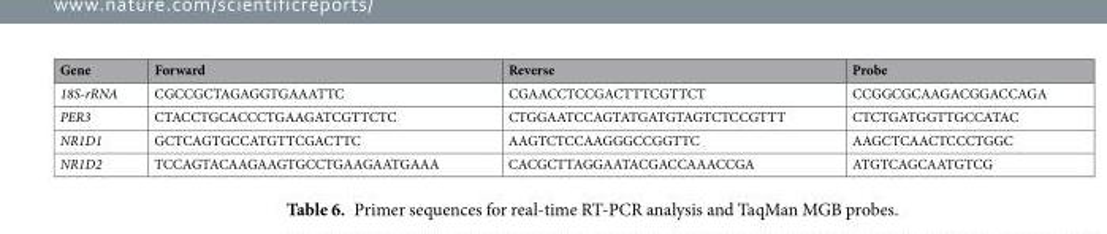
<table><thead><tr><td>Gene</td><td>Forward</td><td>Reverse</td><td>Probe</td></tr></thead><tbody><tr><td>18S-rRNA</td><td>CGCCGCTAGAGGTGAAATTC</td><td>CGAACCTCCGACTTTCGTTCT</td><td>CCGGCGCAAGACGGACCAGA</td></tr><tr><td>PER3</td><td>CTACCTGCACCCTGAAGATCGTTCTC</td><td>CTGGAATCCAGTATGATGTAGTCTCCGTTT</td><td>CTCTGATGGTTGCCATAC</td></tr><tr><td>NR1D1</td><td>GCTCAGTGCCATGTTCGACTTC</td><td>AAGTCTCCAAGGGCCGGTTC</td><td>AAGCTCAACTCCCTGGC</td></tr><tr><td>NR1D2</td><td>TCCAGTACAAGAAGTGCCTGAAGAATGAAA</td><td>CACGCTTAGGAATACGACCAAACCGA</td><td>ATGTCAGCAATGTCG</td></tr></tbody></table>